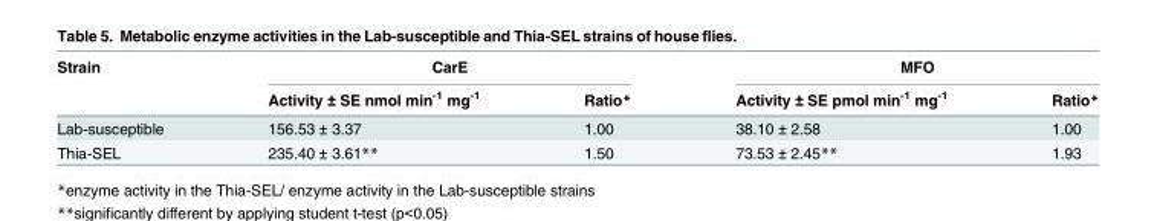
<table><thead><tr><td rowspan="2">Strain</td><td colspan="2">CarE</td><td colspan="2">MFO</td></tr><tr><td>Activity ± SE nmol min<sup>-1</sup> mg<sup>-1</sup></td><td>Ratio*</td><td>Activity ± SE pmol min<sup>-1</sup> mg<sup>-1</sup></td><td>Ratio*</td></tr></thead><tbody><tr><td>Lab-susceptible</td><td>156.53 ± 3.37</td><td>1.00</td><td>38.10 ± 2.58</td><td>1.00</td></tr><tr><td>Thia-SEL</td><td>235.40 ± 3.61**</td><td>1.50</td><td>73.53 ± 2.45**</td><td>1.93</td></tr></tbody></table>